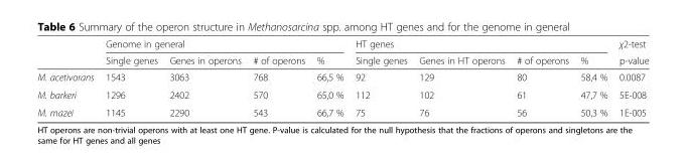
<table><thead><tr><td rowspan="2"></td><td colspan="4">Genome in general</td><td colspan="4">HT genes</td><td rowspan="2">χ2-test p-value</td></tr><tr><td>Single genes</td><td>Genes in operons</td><td># of operons</td><td>%</td><td>Single genes</td><td>Genes in HT operons</td><td># of operons</td><td>%</td></tr></thead><tbody><tr><td>M. acetivorans</td><td>1543</td><td>3063</td><td>768</td><td>66,5 %</td><td>92</td><td>129</td><td>80</td><td>58,4 %</td><td>0.0087</td></tr><tr><td>M. barkeri</td><td>1296</td><td>2402</td><td>570</td><td>65,0 %</td><td>112</td><td>102</td><td>61</td><td>47,7 %</td><td>5E-008</td></tr><tr><td>M. mazei</td><td>1145</td><td>2290</td><td>543</td><td>66,7 %</td><td>75</td><td>76</td><td>56</td><td>50,3 %</td><td>1E-005</td></tr></tbody></table>